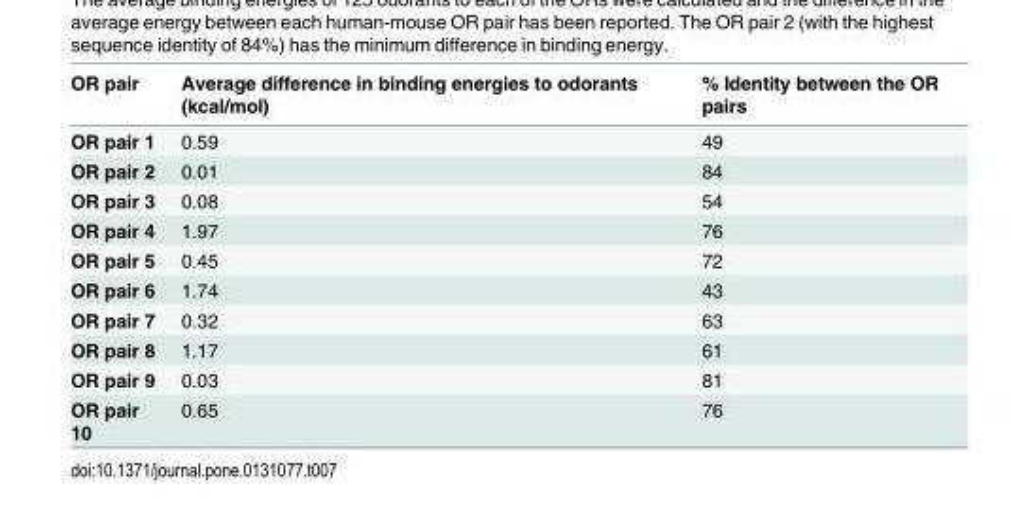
<table><thead><tr><td>OR pair</td><td>Average difference in binding energies to odorants (kcal/mol)</td><td>% Identity between the OR pairs</td></tr></thead><tbody><tr><td>OR pair 1</td><td>0.59</td><td>49</td></tr><tr><td>OR pair 2</td><td>0.01</td><td>84</td></tr><tr><td>OR pair 3</td><td>0.08</td><td>54</td></tr><tr><td>OR pair 4</td><td>1.97</td><td>76</td></tr><tr><td>OR pair 5</td><td>0.45</td><td>72</td></tr><tr><td>OR pair 6</td><td>1.74</td><td>43</td></tr><tr><td>OR pair 7</td><td>0.32</td><td>63</td></tr><tr><td>OR pair 8</td><td>1.17</td><td>61</td></tr><tr><td>OR pair 9</td><td>0.03</td><td>81</td></tr><tr><td>OR pair 10</td><td>0.65</td><td>76</td></tr></tbody></table>